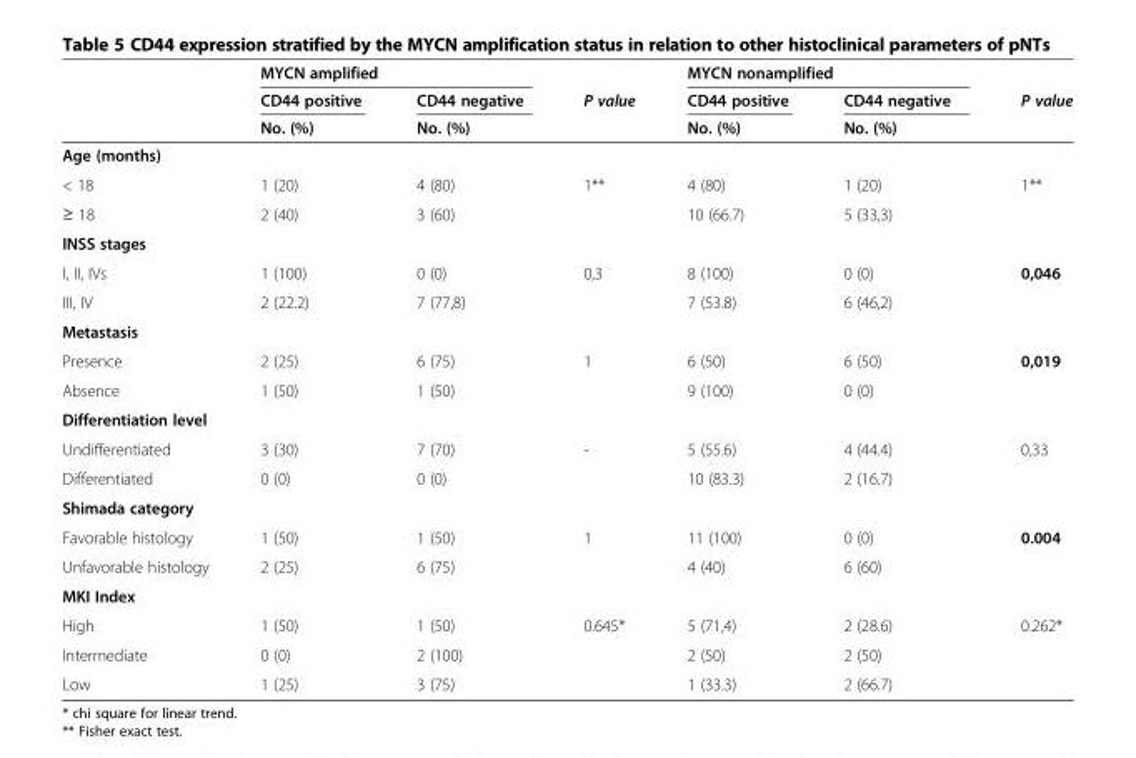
<table><thead><tr><td rowspan="3"></td><td colspan="2">MYCN amplified</td><td rowspan="3">P value</td><td colspan="2">MYCN nonamplified</td><td rowspan="3">P value</td></tr><tr><td rowspan="2">CD44 positive No. (%)</td><td rowspan="2">CD44 negative No. (%)</td><td rowspan="2">CD44 positive No. (%)</td><td rowspan="2">CD44 negative No. (%)</td></tr><tr></tr></thead><tbody><tr><td colspan="7">Age (months)</td></tr><tr><td>&lt; 18</td><td>1 (20)</td><td>4 (80)</td><td rowspan="2">1**</td><td>4 (80)</td><td>1 (20)</td><td rowspan="2">1**</td></tr><tr><td>≥ 18</td><td>2 (40)</td><td>3 (60)</td><td>10 (66.7)</td><td>5 (33,3)</td></tr><tr><td colspan="7">INSS stages</td></tr><tr><td>I, II, IVs</td><td>1 (100)</td><td>0 (0)</td><td rowspan="2">0,3</td><td>8 (100)</td><td>0 (0)</td><td rowspan="2">0,046</td></tr><tr><td>III, IV</td><td>2 (22.2)</td><td>7 (77,8)</td><td>7 (53.8)</td><td>6 (46,2)</td></tr><tr><td colspan="7">Metastasis</td></tr><tr><td>Presence</td><td>2 (25)</td><td>6 (75)</td><td rowspan="2">1</td><td>6 (50)</td><td>6 (50)</td><td rowspan="2">0,019</td></tr><tr><td>Absence</td><td>1 (50)</td><td>1 (50)</td><td>9 (100)</td><td>0 (0)</td></tr><tr><td colspan="7">Differentiation level</td></tr><tr><td>Undifferentiated</td><td>3 (30)</td><td>7 (70)</td><td>-</td><td>5 (55.6)</td><td>4 (44.4)</td><td>0,33</td></tr><tr><td>Differentiated</td><td>0 (0)</td><td>0 (0)</td><td></td><td>10 (83.3)</td><td>2 (16.7)</td><td></td></tr><tr><td colspan="7">Shimada category</td></tr><tr><td>Favorable histology</td><td>1 (50)</td><td>1 (50)</td><td rowspan="2">1</td><td>11 (100)</td><td>0 (0)</td><td rowspan="2">0.004</td></tr><tr><td>Unfavorable histology</td><td>2 (25)</td><td>6 (75)</td><td>4 (40)</td><td>6 (60)</td></tr><tr><td colspan="7">MKI Index</td></tr><tr><td>High</td><td>1 (50)</td><td>1 (50)</td><td rowspan="2">0.645*</td><td>5 (71,4)</td><td>2 (28.6)</td><td rowspan="2">0.262*</td></tr><tr><td>Intermediate</td><td>0 (0)</td><td>2 (100)</td><td>2 (50)</td><td>2 (50)</td></tr><tr><td>Low</td><td>1 (25)</td><td>3 (75)</td><td></td><td>1 (33.3)</td><td>2 (66.7)</td><td></td></tr></tbody></table>